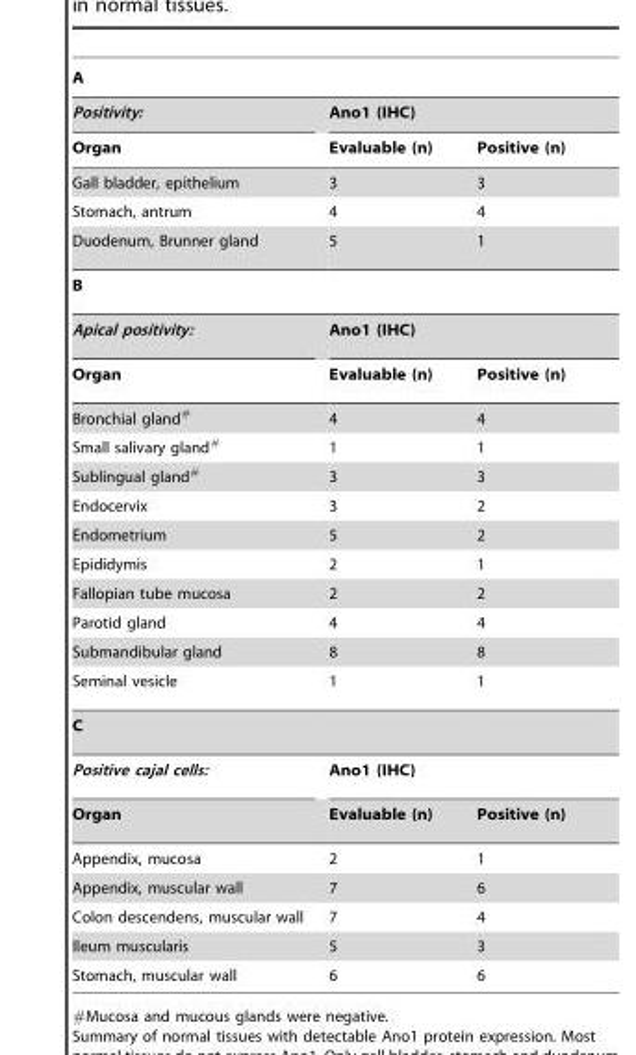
<table><thead><tr><td colspan="3">A</td></tr><tr><td rowspan="2">Positivity: Organ</td><td colspan="2">Ano1 (IHC)</td></tr><tr><td>Evaluable (n)</td><td>Positive (n)</td></tr></thead><tbody><tr><td>Gall bladder, epithelium</td><td>3</td><td>3</td></tr><tr><td>Stomach, antrum</td><td>4</td><td>4</td></tr><tr><td>Duodenum, Brunner gland</td><td>5</td><td>1</td></tr><tr><td colspan="3">B</td></tr><tr><td>Apical positivity:</td><td colspan="2">Ano1 (IHC)</td></tr><tr><td>Organ</td><td>Evaluable (n)</td><td>Positive (n)</td></tr><tr><td>Bronchial gland<sup>#</sup></td><td>4</td><td>4</td></tr><tr><td>Small salivary gland<sup>#</sup></td><td>1</td><td>1</td></tr><tr><td>Sublingual gland<sup>#</sup></td><td>3</td><td>3</td></tr><tr><td>Endocervix</td><td>3</td><td>2</td></tr><tr><td>Endometrium</td><td>5</td><td>2</td></tr><tr><td>Epididymis</td><td>2</td><td>1</td></tr><tr><td>Fallopian tube mucosa</td><td>2</td><td>2</td></tr><tr><td>Parotid gland</td><td>4</td><td>4</td></tr><tr><td>Submandibular gland</td><td>8</td><td>8</td></tr><tr><td>Seminal vesicle</td><td>1</td><td>1</td></tr><tr><td colspan="3">C</td></tr><tr><td>Positive cajal cells:</td><td colspan="2">Ano1 (IHC)</td></tr><tr><td>Organ</td><td>Evaluable (n)</td><td>Positive (n)</td></tr><tr><td>Appendix, mucosa</td><td>2</td><td>1</td></tr><tr><td>Appendix, muscular wall</td><td>7</td><td>6</td></tr><tr><td>Colon descendens, muscular wall</td><td>7</td><td>4</td></tr><tr><td>Ileum muscularis</td><td>5</td><td>3</td></tr><tr><td>Stomach, muscular wall</td><td>6</td><td>6</td></tr></tbody></table>